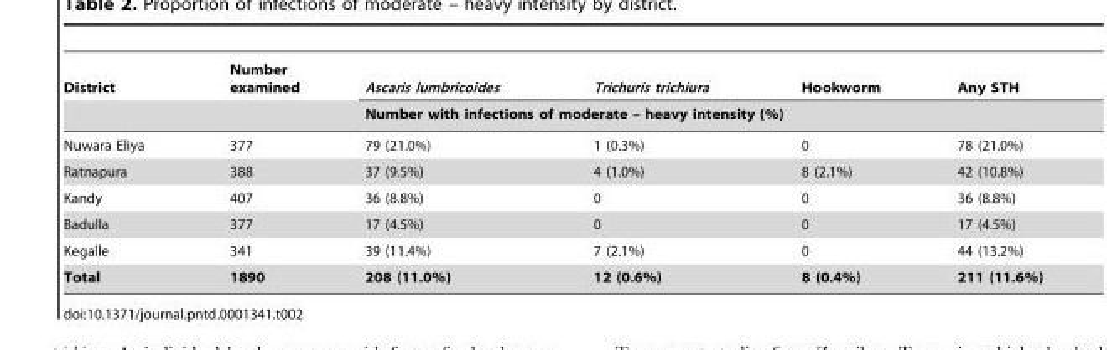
<table><thead><tr><td rowspan="2">District</td><td rowspan="2">Number examined</td><td>Ascaris lumbricoides</td><td>Trichuris trichiura</td><td>Hookworm</td><td>Any STH</td></tr><tr><td colspan="4">Number with infections of moderate – heavy intensity (%)</td></tr></thead><tbody><tr><td>Nuwara Eliya</td><td>377</td><td>79 (21.0%)</td><td>1 (0.3%)</td><td>0</td><td>78 (21.0%)</td></tr><tr><td>Ratnapura</td><td>388</td><td>37 (9.5%)</td><td>4 (1.0%)</td><td>8 (2.1%)</td><td>42 (10.8%)</td></tr><tr><td>Kandy</td><td>407</td><td>36 (8.8%)</td><td>0</td><td>0</td><td>36 (8.8%)</td></tr><tr><td>Badulla</td><td>377</td><td>17 (4.5%)</td><td>0</td><td>0</td><td>17 (4.5%)</td></tr><tr><td>Kegalle</td><td>341</td><td>39 (11.4%)</td><td>7 (2.1%)</td><td>0</td><td>44 (13.2%)</td></tr><tr><td>Total</td><td>1890</td><td>208 (11.0%)</td><td>12 (0.6%)</td><td>8 (0.4%)</td><td>211 (11.6%)</td></tr></tbody></table>